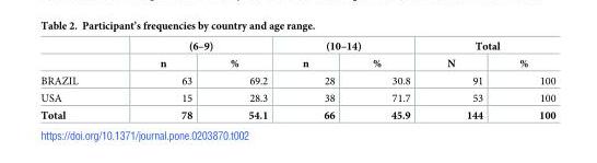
<table><thead><tr><td rowspan="2"></td><td colspan="2">(6–9)</td><td colspan="2">(10–14)</td><td colspan="2">Total</td></tr><tr><td>n</td><td>%</td><td>n</td><td>%</td><td>N</td><td>%</td></tr></thead><tbody><tr><td>BRAZIL</td><td>63</td><td>69.2</td><td>28</td><td>30.8</td><td>91</td><td>100</td></tr><tr><td>USA</td><td>15</td><td>28.3</td><td>38</td><td>71.7</td><td>53</td><td>100</td></tr><tr><td>Total</td><td>78</td><td>54.1</td><td>66</td><td>45.9</td><td>144</td><td>100</td></tr></tbody></table>